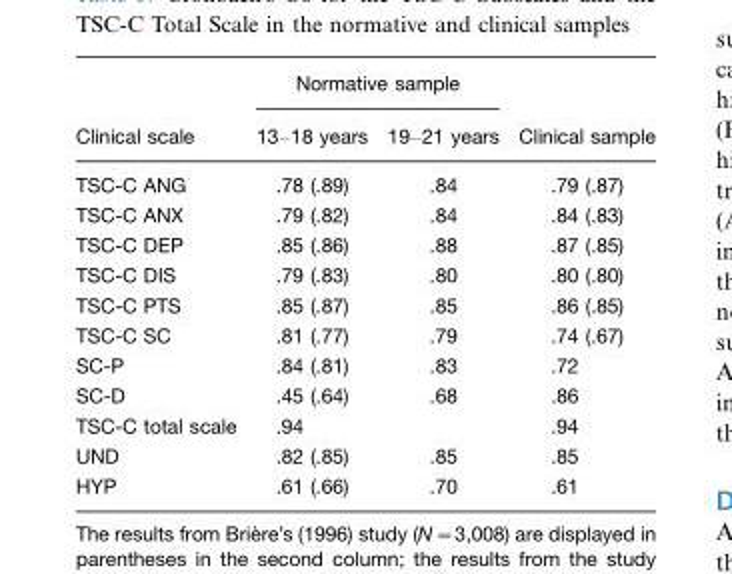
<table><thead><tr><td rowspan="2">Clinical scale</td><td colspan="2">Normative sample</td><td rowspan="2">Clinical sample</td></tr><tr><td>13–18 years</td><td>19–21 years</td></tr></thead><tbody><tr><td>TSC-C ANG</td><td>.78 (.89)</td><td>.84</td><td>.79 (.87)</td></tr><tr><td>TSC-C ANX</td><td>.79 (.82)</td><td>.84</td><td>.84 (.83)</td></tr><tr><td>TSC-C DEP</td><td>.85 (.86)</td><td>.88</td><td>.87 (.85)</td></tr><tr><td>TSC-C DIS</td><td>.79 (.83)</td><td>.80</td><td>.80 (.80)</td></tr><tr><td>TSC-C PTS</td><td>.85 (.87)</td><td>.85</td><td>.86 (.85)</td></tr><tr><td>TSC-C SC</td><td>.81 (.77)</td><td>.79</td><td>.74 (.67)</td></tr><tr><td>SC-P</td><td>.84 (.81)</td><td>.83</td><td>.72</td></tr><tr><td>SC-D</td><td>.45 (.64)</td><td>.68</td><td>.86</td></tr><tr><td>TSC-C total scale</td><td>.94</td><td></td><td>.94</td></tr><tr><td>UND</td><td>.82 (.85)</td><td>.85</td><td>.85</td></tr><tr><td>HYP</td><td>.61 (.66)</td><td>.70</td><td>.61</td></tr></tbody></table>